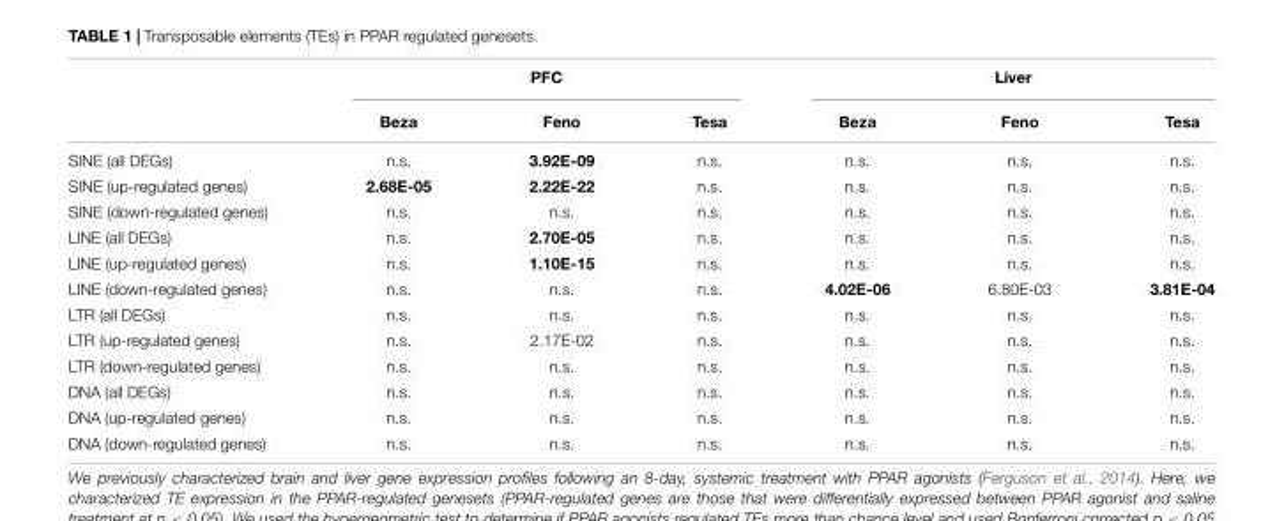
<table><thead><tr><td rowspan="2"></td><td colspan="3">PFC</td><td colspan="3">Liver</td></tr><tr><td>Beza</td><td>Feno</td><td>Tesa</td><td>Beza</td><td>Feno</td><td>Tesa</td></tr></thead><tbody><tr><td>SINE (all DEGs)</td><td>n.s.</td><td>3.92E-09</td><td>n.s.</td><td>n.s.</td><td>n.s.</td><td>n.s.</td></tr><tr><td>SINE (up-regulated genes)</td><td>2.68E-05</td><td>2.22E-22</td><td>n.s.</td><td>n.s.</td><td>n.s.</td><td>n.s.</td></tr><tr><td>SINE (down-regulated genes)</td><td>n.s.</td><td>n.s.</td><td>n.s.</td><td>n.s.</td><td>n.s.</td><td>n.s.</td></tr><tr><td>LINE (all DEGs)</td><td>n.s.</td><td>2.70E-05</td><td>n.s.</td><td>n.s.</td><td>n.s.</td><td>n.s.</td></tr><tr><td>LINE (up-regulated genes)</td><td>n.s.</td><td>1.10E-15</td><td>n.s.</td><td>n.s.</td><td>n.s.</td><td>n.s.</td></tr><tr><td>LINE (down-regulated genes)</td><td>n.s.</td><td>n.s.</td><td>n.s.</td><td>4.02E-06</td><td>6.80E-03</td><td>3.81E-04</td></tr><tr><td>LTR (all DEGs)</td><td>n.s.</td><td>n.s.</td><td>n.s.</td><td>n.s.</td><td>n.s.</td><td>n.s.</td></tr><tr><td>LTR (up-regulated genes)</td><td>n.s.</td><td>2.17E-02</td><td>n.s.</td><td>n.s.</td><td>n.s.</td><td>n.s.</td></tr><tr><td>LTR (down-regulated genes)</td><td>n.s.</td><td>n.s.</td><td>n.s.</td><td>n.s.</td><td>n.s.</td><td>n.s.</td></tr><tr><td>DNA (all DEGs)</td><td>n.s.</td><td>n.s.</td><td>n.s.</td><td>n.s.</td><td>n.s.</td><td>n.s.</td></tr><tr><td>DNA (up-regulated genes)</td><td>n.s.</td><td>n.s.</td><td>n.s.</td><td>n.s.</td><td>n.s.</td><td>n.s.</td></tr><tr><td>DNA (down-regulated genes)</td><td>n.s.</td><td>n.s.</td><td>n.s.</td><td>n.s.</td><td>n.s.</td><td>n.s.</td></tr></tbody></table>